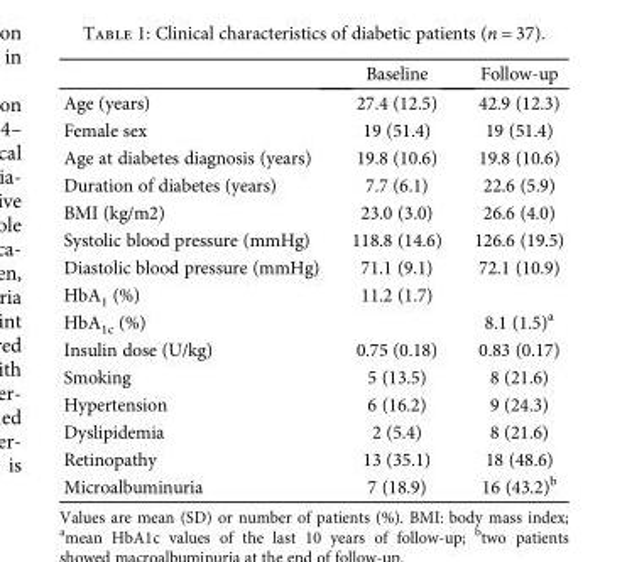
<table><thead><tr><td></td><td>Baseline</td><td>Follow-up</td></tr></thead><tbody><tr><td>Age (years)</td><td>27.4 (12.5)</td><td>42.9 (12.3)</td></tr><tr><td>Female sex</td><td>19 (51.4)</td><td>19 (51.4)</td></tr><tr><td>Age at diabetes diagnosis (years)</td><td>19.8 (10.6)</td><td>19.8 (10.6)</td></tr><tr><td>Duration of diabetes (years)</td><td>7.7 (6.1)</td><td>22.6 (5.9)</td></tr><tr><td>BMI (kg/m2)</td><td>23.0 (3.0)</td><td>26.6 (4.0)</td></tr><tr><td>Systolic blood pressure (mmHg)</td><td>118.8 (14.6)</td><td>126.6 (19.5)</td></tr><tr><td>Diastolic blood pressure (mmHg)</td><td>71.1 (9.1)</td><td>72.1 (10.9)</td></tr><tr><td>HbA<sub>1</sub> (%)</td><td>11.2 (1.7)</td><td></td></tr><tr><td>HbA<sub>1c</sub> (%)</td><td></td><td>8.1 (1.5)<sup>a</sup></td></tr><tr><td>Insulin dose (U/kg)</td><td>0.75 (0.18)</td><td>0.83 (0.17)</td></tr><tr><td>Smoking</td><td>5 (13.5)</td><td>8 (21.6)</td></tr><tr><td>Hypertension</td><td>6 (16.2)</td><td>9 (24.3)</td></tr><tr><td>Dyslipidemia</td><td>2 (5.4)</td><td>8 (21.6)</td></tr><tr><td>Retinopathy</td><td>13 (35.1)</td><td>18 (48.6)</td></tr><tr><td>Microalbuminuria</td><td>7 (18.9)</td><td>16 (43.2)<sup>b</sup></td></tr></tbody></table>